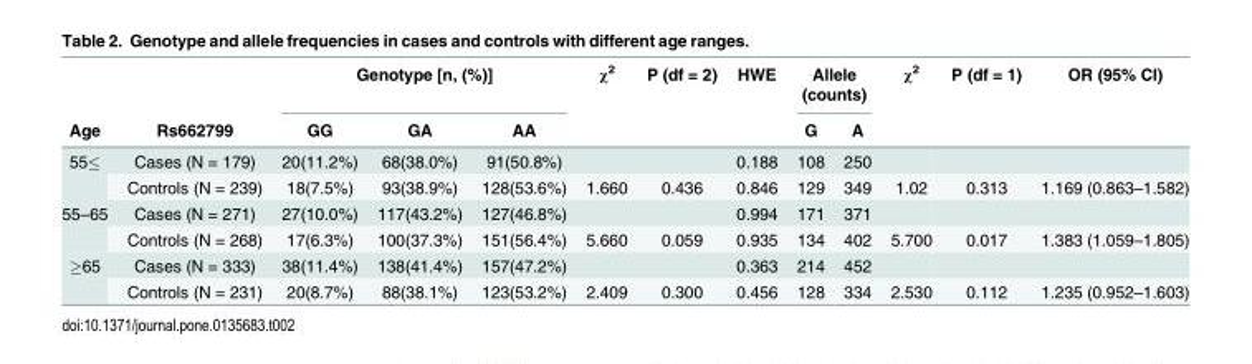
<table><thead><tr><td rowspan="2">Age</td><td rowspan="2">Rs662799</td><td colspan="3">Genotype [n, (%)]</td><td rowspan="2">χ<sup>2</sup></td><td rowspan="2">P (df = 2)</td><td rowspan="2">HWE</td><td colspan="2">Allele (counts)</td><td rowspan="2">χ<sup>2</sup></td><td rowspan="2">P (df = 1)</td><td rowspan="2">OR (95% CI)</td></tr><tr><td>GG</td><td>GA</td><td>AA</td><td>G</td><td>A</td></tr></thead><tbody><tr><td rowspan="2">55≤</td><td>Cases (N = 179)</td><td>20(11.2%)</td><td>68(38.0%)</td><td>91(50.8%)</td><td></td><td></td><td>0.188</td><td>108</td><td>250</td><td></td><td></td><td></td></tr><tr><td>Controls (N = 239)</td><td>18(7.5%)</td><td>93(38.9%)</td><td>128(53.6%)</td><td>1.660</td><td>0.436</td><td>0.846</td><td>129</td><td>349</td><td>1.02</td><td>0.313</td><td>1.169 (0.863–1.582)</td></tr><tr><td rowspan="2">55–65</td><td>Cases (N = 271)</td><td>27(10.0%)</td><td>117(43.2%)</td><td>127(46.8%)</td><td></td><td></td><td>0.994</td><td>171</td><td>371</td><td></td><td></td><td></td></tr><tr><td>Controls (N = 268)</td><td>17(6.3%)</td><td>100(37.3%)</td><td>151(56.4%)</td><td>5.660</td><td>0.059</td><td>0.935</td><td>134</td><td>402</td><td>5.700</td><td>0.017</td><td>1.383 (1.059–1.805)</td></tr><tr><td rowspan="2">≥65</td><td>Cases (N = 333)</td><td>38(11.4%)</td><td>138(41.4%)</td><td>157(47.2%)</td><td></td><td></td><td>0.363</td><td>214</td><td>452</td><td></td><td></td><td></td></tr><tr><td>Controls (N = 231)</td><td>20(8.7%)</td><td>88(38.1%)</td><td>123(53.2%)</td><td>2.409</td><td>0.300</td><td>0.456</td><td>128</td><td>334</td><td>2.530</td><td>0.112</td><td>1.235 (0.952–1.603)</td></tr></tbody></table>